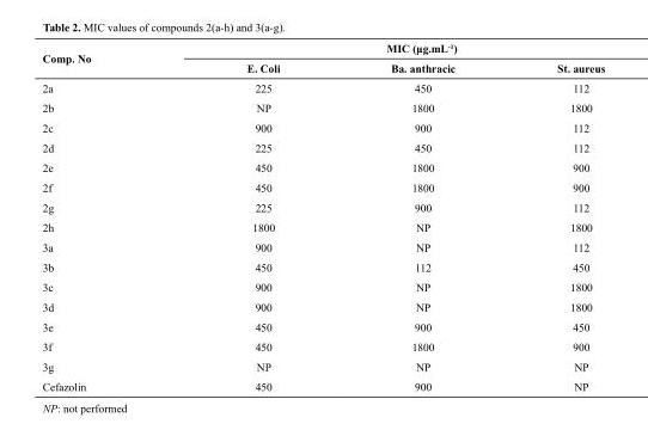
<table><thead><tr><td rowspan="2">Comp. No</td><td colspan="3">MIC (μg.mL<sup>-1</sup>)</td></tr><tr><td>E. Coli</td><td>Ba. anthracic</td><td>St. aureus</td></tr></thead><tbody><tr><td>2a</td><td>225</td><td>450</td><td>112</td></tr><tr><td>2b</td><td>NP</td><td>1800</td><td>1800</td></tr><tr><td>2c</td><td>900</td><td>900</td><td>112</td></tr><tr><td>2d</td><td>225</td><td>450</td><td>112</td></tr><tr><td>2e</td><td>450</td><td>1800</td><td>900</td></tr><tr><td>2f</td><td>450</td><td>1800</td><td>900</td></tr><tr><td>2g</td><td>225</td><td>900</td><td>112</td></tr><tr><td>2h</td><td>1800</td><td>NP</td><td>1800</td></tr><tr><td>3a</td><td>900</td><td>NP</td><td>112</td></tr><tr><td>3b</td><td>450</td><td>112</td><td>450</td></tr><tr><td>3c</td><td>900</td><td>NP</td><td>1800</td></tr><tr><td>3d</td><td>900</td><td>NP</td><td>1800</td></tr><tr><td>3e</td><td>450</td><td>900</td><td>450</td></tr><tr><td>3f</td><td>450</td><td>1800</td><td>900</td></tr><tr><td>3g</td><td>NP</td><td>NP</td><td>NP</td></tr><tr><td>Cefazolin</td><td>450</td><td>900</td><td>NP</td></tr></tbody></table>